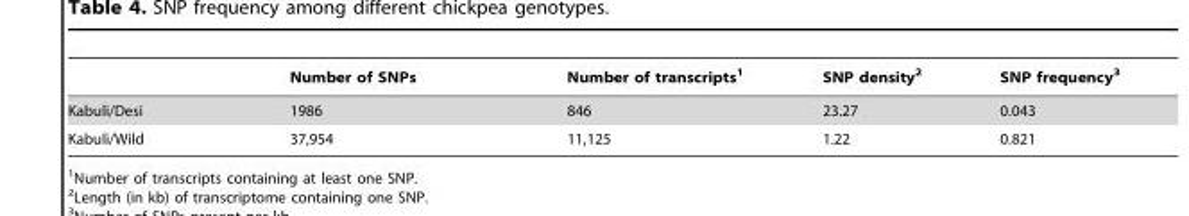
<table><thead><tr><td></td><td>Number of SNPs</td><td>Number of transcripts<sup>1</sup></td><td>SNP density<sup>2</sup></td><td>SNP frequency<sup>3</sup></td></tr></thead><tbody><tr><td>Kabuli/Desi</td><td>1986</td><td>846</td><td>23.27</td><td>0.043</td></tr><tr><td>Kabuli/Wild</td><td>37,954</td><td>11,125</td><td>1.22</td><td>0.821</td></tr></tbody></table>